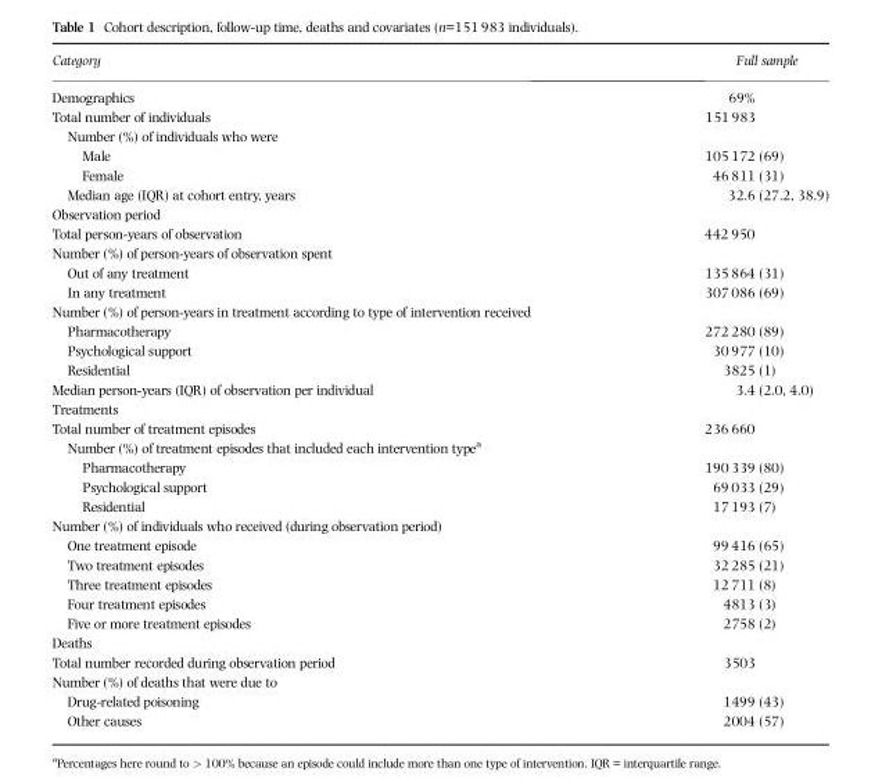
<table><thead><tr><td>Category</td><td>Full sample</td></tr></thead><tbody><tr><td>Demographics</td><td>69%</td></tr><tr><td>Total number of individuals</td><td>151 983</td></tr><tr><td colspan="2">Number (%) of individuals who were</td></tr><tr><td>Male</td><td>105 172 (69)</td></tr><tr><td>Female</td><td>46 811 (31)</td></tr><tr><td>Median age (IQR) at cohort entry, years</td><td>32.6 (27.2, 38.9)</td></tr><tr><td colspan="2">Observation period</td></tr><tr><td>Total person-years of observation</td><td>442 950</td></tr><tr><td colspan="2">Number (%) of person-years of observation spent</td></tr><tr><td>Out of any treatment</td><td>135 864 (31)</td></tr><tr><td>In any treatment</td><td>307 086 (69)</td></tr><tr><td colspan="2">Number (%) of person-years in treatment according to type of intervention received</td></tr><tr><td>Pharmacotherapy</td><td>272 280 (89)</td></tr><tr><td>Psychological support</td><td>30 977 (10)</td></tr><tr><td>Residential</td><td>3825 (1)</td></tr><tr><td>Median person-years (IQR) of observation per individual</td><td>3.4 (2.0, 4.0)</td></tr><tr><td colspan="2">Treatments</td></tr><tr><td>Total number of treatment episodes</td><td>236 660</td></tr><tr><td colspan="2">Number (%) of treatment episodes that included each intervention type<sup>a</sup></td></tr><tr><td>Pharmacotherapy</td><td>190 339 (80)</td></tr><tr><td>Psychological support</td><td>69 033 (29)</td></tr><tr><td>Residential</td><td>17 193 (7)</td></tr><tr><td colspan="2">Number (%) of individuals who received (during observation period)</td></tr><tr><td>One treatment episode</td><td>99 416 (65)</td></tr><tr><td>Two treatment episodes</td><td>32 285 (21)</td></tr><tr><td>Three treatment episodes</td><td>12 711 (8)</td></tr><tr><td>Four treatment episodes</td><td>4813 (3)</td></tr><tr><td>Five or more treatment episodes</td><td>2758 (2)</td></tr><tr><td colspan="2">Deaths</td></tr><tr><td>Total number recorded during observation period</td><td>3503</td></tr><tr><td colspan="2">Number (%) of deaths that were due to</td></tr><tr><td>Drug-related poisoning</td><td>1499 (43)</td></tr><tr><td>Other causes</td><td>2004 (57)</td></tr></tbody></table>